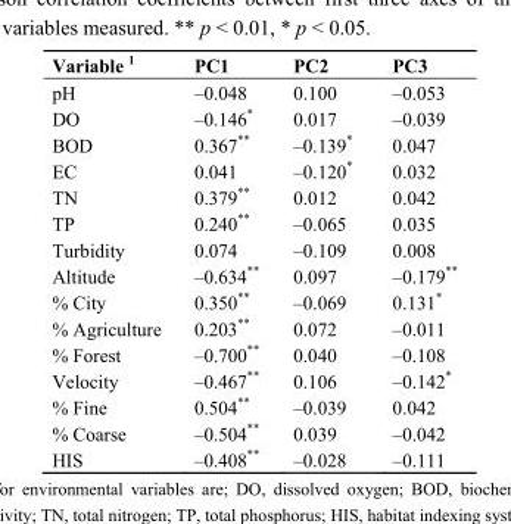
<table><thead><tr><td>Variable <sup>1</sup></td><td>PC1</td><td>PC2</td><td>PC3</td></tr></thead><tbody><tr><td>pH</td><td>–0.048</td><td>0.100</td><td>–0.053</td></tr><tr><td>DO</td><td>–0.146*</td><td>0.017</td><td>–0.039</td></tr><tr><td>BOD</td><td>0.367**</td><td>–0.139*</td><td>0.047</td></tr><tr><td>EC</td><td>0.041</td><td>–0.120*</td><td>0.032</td></tr><tr><td>TN</td><td>0.379**</td><td>0.012</td><td>0.042</td></tr><tr><td>TP</td><td>0.240**</td><td>–0.065</td><td>0.035</td></tr><tr><td>Turbidity</td><td>0.074</td><td>–0.109</td><td>0.008</td></tr><tr><td>Altitude</td><td>–0.634**</td><td>0.097</td><td>–0.179**</td></tr><tr><td>% City</td><td>0.350**</td><td>–0.069</td><td>0.131*</td></tr><tr><td>% Agriculture</td><td>0.203**</td><td>0.072</td><td>–0.011</td></tr><tr><td>% Forest</td><td>–0.700**</td><td>0.040</td><td>–0.108</td></tr><tr><td>Velocity</td><td>–0.467**</td><td>0.106</td><td>–0.142*</td></tr><tr><td>% Fine</td><td>0.504**</td><td>–0.039</td><td>0.042</td></tr><tr><td>% Coarse</td><td>–0.504**</td><td>0.039</td><td>–0.042</td></tr><tr><td>HIS</td><td>–0.408**</td><td>–0.028</td><td>–0.111</td></tr></tbody></table>